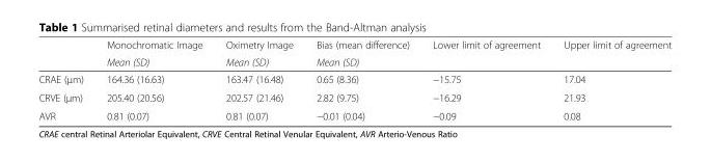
<table><thead><tr><td rowspan="2"></td><td rowspan="2">Monochromatic Image Mean (SD)</td><td rowspan="2">Oximetry Image Mean (SD)</td><td rowspan="2">Bias (mean difference) Mean (SD)</td><td rowspan="2">Lower limit of agreement</td><td rowspan="2">Upper limit of agreement</td></tr><tr></tr></thead><tbody><tr><td>CRAE (μm)</td><td>164.36 (16.63)</td><td>163.47 (16.48)</td><td>0.65 (8.36)</td><td>−15.75</td><td>17.04</td></tr><tr><td>CRVE (μm)</td><td>205.40 (20.56)</td><td>202.57 (21.46)</td><td>2.82 (9.75)</td><td>−16.29</td><td>21.93</td></tr><tr><td>AVR</td><td>0.81 (0.07)</td><td>0.81 (0.07)</td><td>−0.01 (0.04)</td><td>−0.09</td><td>0.08</td></tr></tbody></table>